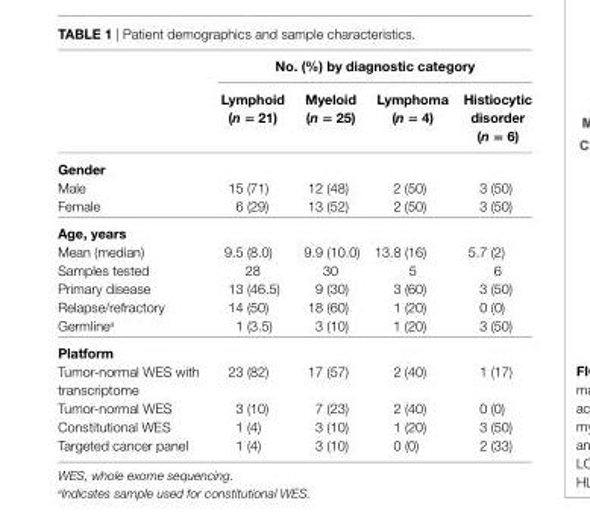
<table><thead><tr><td rowspan="2"></td><td colspan="4">no. (%) by diagnostic category</td></tr><tr><td>lymphoid (n = 21)</td><td>Myeloid (n = 25)</td><td>lymphoma (n = 4)</td><td>histiocytic disorder (n = 6)</td></tr></thead><tbody><tr><td colspan="5">gender</td></tr><tr><td>Male</td><td>15 (71)</td><td>12 (48)</td><td>2 (50)</td><td>3 (50)</td></tr><tr><td>Female</td><td>6 (29)</td><td>13 (52)</td><td>2 (50)</td><td>3 (50)</td></tr><tr><td colspan="5">age, years</td></tr><tr><td>Mean (median)</td><td>9.5 (8.0)</td><td>9.9 (10.0)</td><td>13.8 (16)</td><td>5.7 (2)</td></tr><tr><td>Samples tested</td><td>28</td><td>30</td><td>5</td><td>6</td></tr><tr><td>Primary disease</td><td>13 (46.5)</td><td>9 (30)</td><td>3 (60)</td><td>3 (50)</td></tr><tr><td>Relapse/refractory</td><td>14 (50)</td><td>18 (60)</td><td>1 (20)</td><td>0 (0)</td></tr><tr><td>Germline<sup>a</sup></td><td>1 (3.5)</td><td>3 (10)</td><td>1 (20)</td><td>3 (50)</td></tr><tr><td colspan="5">Platform</td></tr><tr><td>Tumor-normal WES with transcriptome</td><td>23 (82)</td><td>17 (57)</td><td>2 (40)</td><td>1 (17)</td></tr><tr><td>Tumor-normal WES</td><td>3 (10)</td><td>7 (23)</td><td>2 (40)</td><td>0 (0)</td></tr><tr><td>Constitutional WES</td><td>1 (4)</td><td>3 (10)</td><td>1 (20)</td><td>3 (50)</td></tr><tr><td>Targeted cancer panel</td><td>1 (4)</td><td>3 (10)</td><td>0 (0)</td><td>2 (33)</td></tr></tbody></table>